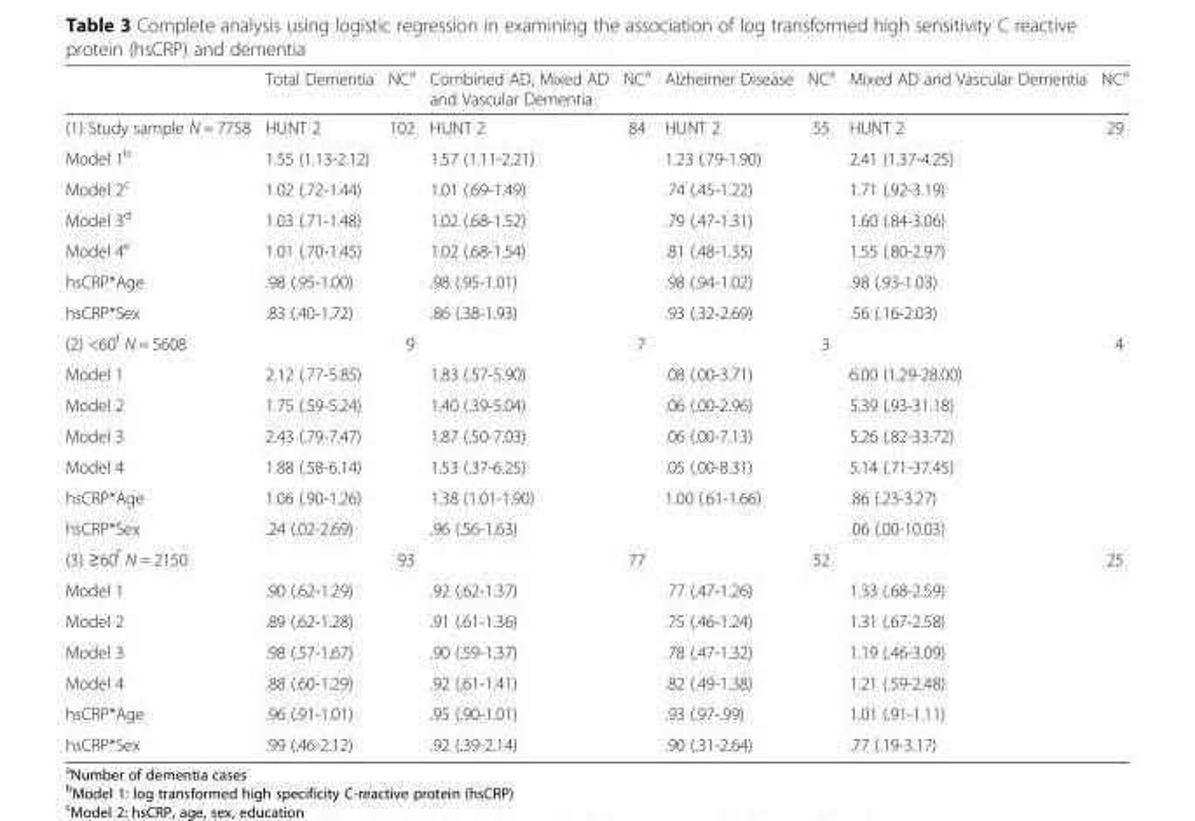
<table><thead><tr><td></td><td>Total Dementia</td><td>NC<sup>a</sup></td><td>Combined AD, Mixed AD and Vascular Dementia</td><td>NC<sup>a</sup></td><td>Alzheimer Disease</td><td>NC<sup>a</sup></td><td>Mixed AD and Vascular Dementia</td><td>NC<sup>a</sup></td></tr></thead><tbody><tr><td>(1) Study sample N = 7758</td><td>HUNT 2</td><td>102</td><td>HUNT 2</td><td>84</td><td>HUNT 2</td><td>55</td><td>HUNT 2</td><td>29</td></tr><tr><td>Model 1<sup>b</sup></td><td>1.55 (1.13-2.12)</td><td></td><td>1.57 (1.11-2.21)</td><td></td><td>1.23 (.79-1.90)</td><td></td><td>2.41 (1.37-4.25)</td><td></td></tr><tr><td>Model 2<sup>c</sup></td><td>1.02 (.72-1.44)</td><td></td><td>1.01 (.69-1.49)</td><td></td><td>.74 (.45-1.22)</td><td></td><td>1.71 (.92-3.19)</td><td></td></tr><tr><td>Model 3<sup>d</sup></td><td>1.03 (.71-1.48)</td><td></td><td>1.02 (.68-1.52)</td><td></td><td>.79 (.47-1.31)</td><td></td><td>1.60 (.84-3.06)</td><td></td></tr><tr><td>Model 4<sup>e</sup></td><td>1.01 (.70-1.45)</td><td></td><td>1.02 (.68-1.54)</td><td></td><td>.81 (.48-1.35)</td><td></td><td>1.55 (.80-2.97)</td><td></td></tr><tr><td>hsCRP*Age</td><td>.98 (.95-1.00)</td><td></td><td>.98 (.95-1.01)</td><td></td><td>.98 (.94-1.02)</td><td></td><td>.98 (.93-1.03)</td><td></td></tr><tr><td>hsCRP*Sex</td><td>.83 (.40-1.72)</td><td></td><td>.86 (.38-1.93)</td><td></td><td>.93 (.32-2.69)</td><td></td><td>.56 (.16-2.03)</td><td></td></tr><tr><td>(2) &lt;60<sup>f</sup> N = 5608</td><td></td><td>9</td><td></td><td>7</td><td></td><td>3</td><td></td><td>4</td></tr><tr><td>Model 1</td><td>2.12 (.77-5.85)</td><td></td><td>1.83 (.57-5.90)</td><td></td><td>.08 (.00-3.71)</td><td></td><td>6.00 (1.29-28.00)</td><td></td></tr><tr><td>Model 2</td><td>1.75 (.59-5.24)</td><td></td><td>1.40 (.39-5.04)</td><td></td><td>.06 (.00-2.96)</td><td></td><td>5.39 (.93-31.18)</td><td></td></tr><tr><td>Model 3</td><td>2.43 (.79-7.47)</td><td></td><td>1.87 (.50-7.03)</td><td></td><td>.06 (.00-7.13)</td><td></td><td>5.26 (.82-33.72)</td><td></td></tr><tr><td>Model 4</td><td>1.88 (.58-6.14)</td><td></td><td>1.53 (.37-6.25)</td><td></td><td>.05 (.00-8.31)</td><td></td><td>5.14 (.71-37.45)</td><td></td></tr><tr><td>hsCRP*Age</td><td>1.06 (.90-1.26)</td><td></td><td>1.38 (1.01-1.90)</td><td></td><td>1.00 (.61-1.66)</td><td></td><td>.86 (.23-3.27)</td><td></td></tr><tr><td>hsCRP*Sex</td><td>.24 (.02-2.69)</td><td></td><td>.96 (.56-1.63)</td><td></td><td></td><td></td><td>.06 (.00-10.03)</td><td></td></tr><tr><td>(3) ≥60<sup>f</sup> N = 2150</td><td></td><td>93</td><td></td><td>77</td><td></td><td>52</td><td></td><td>25</td></tr><tr><td>Model 1</td><td>.90 (.62-1.29)</td><td></td><td>.92 (.62-1.37)</td><td></td><td>.77 (.47-1.26)</td><td></td><td>1.33 (.68-2.59)</td><td></td></tr><tr><td>Model 2</td><td>.89 (.62-1.28)</td><td></td><td>.91 (.61-1.36)</td><td></td><td>.75 (.46-1.24)</td><td></td><td>1.31 (.67-2.58)</td><td></td></tr><tr><td>Model 3</td><td>.98 (.57-1.67)</td><td></td><td>.90 (.59-1.37)</td><td></td><td>.78 (.47-1.32)</td><td></td><td>1.19 (.46-3.09)</td><td></td></tr><tr><td>Model 4</td><td>.88 (.60-1.29)</td><td></td><td>.92 (.61-1.41)</td><td></td><td>.82 (.49-1.38)</td><td></td><td>1.21 (.59-2.48)</td><td></td></tr><tr><td>hsCRP*Age</td><td>.96 (.91-1.01)</td><td></td><td>.95 (.90-1.01)</td><td></td><td>.93 (.97-.99)</td><td></td><td>1.01 (.91-1.11)</td><td></td></tr><tr><td>hsCRP*Sex</td><td>.99 (.46-2.12)</td><td></td><td>.92 (.39-2.14)</td><td></td><td>.90 (.31-2.64)</td><td></td><td>.77 (.19-3.17)</td><td></td></tr></tbody></table>